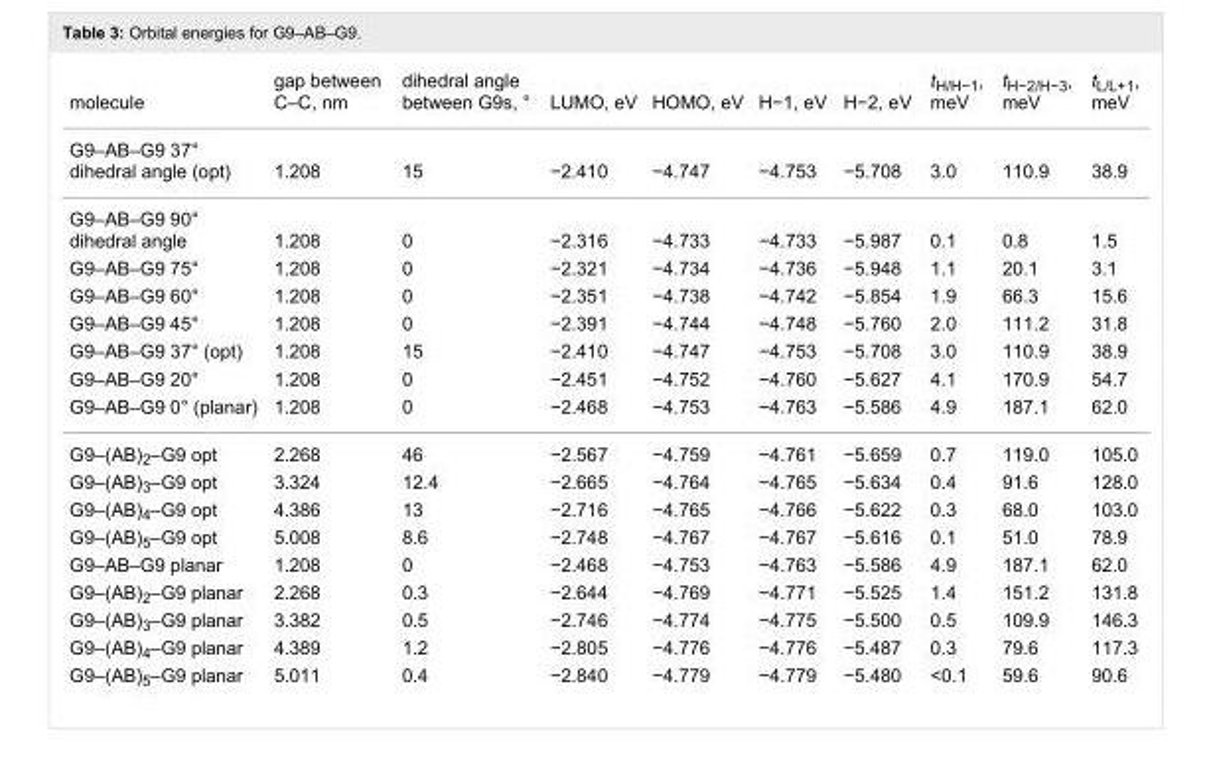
<table><tbody><tr><td>molecule</td><td>gap between C–C, nm</td><td>dihedral angle between G9s, °</td><td>LUMO, eV</td><td>HOMO, eV</td><td>H−1, eV</td><td>H−2, eV</td><td>t<sub>H/H−1</sub>, meV</td><td>t<sub>H−2/H−3</sub>, meV</td><td>t<sub>L/L+1</sub>, meV</td></tr><tr><td>G9–AB–G9 37° dihedral angle (opt)</td><td>1.208</td><td>15</td><td>−2.410</td><td>−4.747</td><td>−4.753</td><td>−5.708</td><td>3.0</td><td>110.9</td><td>38.9</td></tr><tr><td>G9–AB–G9 90° dihedral angle</td><td>1.208</td><td>0</td><td>−2.316</td><td>−4.733</td><td>−4.733</td><td>−5.987</td><td>0.1</td><td>0.8</td><td>1.5</td></tr><tr><td>G9–AB–G9 75°</td><td>1.208</td><td>0</td><td>−2.321</td><td>−4.734</td><td>−4.736</td><td>−5.948</td><td>1.1</td><td>20.1</td><td>3.1</td></tr><tr><td>G9–AB–G9 60°</td><td>1.208</td><td>0</td><td>−2.351</td><td>−4.738</td><td>−4.742</td><td>−5.854</td><td>1.9</td><td>66.3</td><td>15.6</td></tr><tr><td>G9–AB–G9 45°</td><td>1.208</td><td>0</td><td>−2.391</td><td>−4.744</td><td>−4.748</td><td>−5.760</td><td>2.0</td><td>111.2</td><td>31.8</td></tr><tr><td>G9–AB–G9 37° (opt)</td><td>1.208</td><td>15</td><td>−2.410</td><td>−4.747</td><td>−4.753</td><td>−5.708</td><td>3.0</td><td>110.9</td><td>38.9</td></tr><tr><td>G9–AB–G9 20°</td><td>1.208</td><td>0</td><td>−2.451</td><td>−4.752</td><td>−4.760</td><td>−5.627</td><td>4.1</td><td>170.9</td><td>54.7</td></tr><tr><td>G9–AB–G9 0° (planar)</td><td>1.208</td><td>0</td><td>−2.468</td><td>−4.753</td><td>−4.763</td><td>−5.586</td><td>4.9</td><td>187.1</td><td>62.0</td></tr><tr><td>G9–(AB)<sub>2</sub>–G9 opt</td><td>2.268</td><td>46</td><td>−2.567</td><td>−4.759</td><td>−4.761</td><td>−5.659</td><td>0.7</td><td>119.0</td><td>105.0</td></tr><tr><td>G9–(AB)<sub>3</sub>–G9 opt</td><td>3.324</td><td>12.4</td><td>−2.665</td><td>−4.764</td><td>−4.765</td><td>−5.634</td><td>0.4</td><td>91.6</td><td>128.0</td></tr><tr><td>G9–(AB)<sub>4</sub>–G9 opt</td><td>4.386</td><td>13</td><td>−2.716</td><td>−4.765</td><td>−4.766</td><td>−5.622</td><td>0.3</td><td>68.0</td><td>103.0</td></tr><tr><td>G9–(AB)<sub>5</sub>–G9 opt</td><td>5.008</td><td>8.6</td><td>−2.748</td><td>−4.767</td><td>−4.767</td><td>−5.616</td><td>0.1</td><td>51.0</td><td>78.9</td></tr><tr><td>G9–AB–G9 planar</td><td>1.208</td><td>0</td><td>−2.468</td><td>−4.753</td><td>−4.763</td><td>−5.586</td><td>4.9</td><td>187.1</td><td>62.0</td></tr><tr><td>G9–(AB)<sub>2</sub>–G9 planar</td><td>2.268</td><td>0.3</td><td>−2.644</td><td>−4.769</td><td>−4.771</td><td>−5.525</td><td>1.4</td><td>151.2</td><td>131.8</td></tr><tr><td>G9–(AB)<sub>3</sub>–G9 planar</td><td>3.382</td><td>0.5</td><td>−2.746</td><td>−4.774</td><td>−4.775</td><td>−5.500</td><td>0.5</td><td>109.9</td><td>146.3</td></tr><tr><td>G9–(AB)<sub>4</sub>–G9 planar</td><td>4.389</td><td>1.2</td><td>−2.805</td><td>−4.776</td><td>−4.776</td><td>−5.487</td><td>0.3</td><td>79.6</td><td>117.3</td></tr><tr><td>G9–(AB)<sub>5</sub>–G9 planar</td><td>5.011</td><td>0.4</td><td>−2.840</td><td>−4.779</td><td>−4.779</td><td>−5.480</td><td>&lt;0.1</td><td>59.6</td><td>90.6</td></tr></tbody></table>